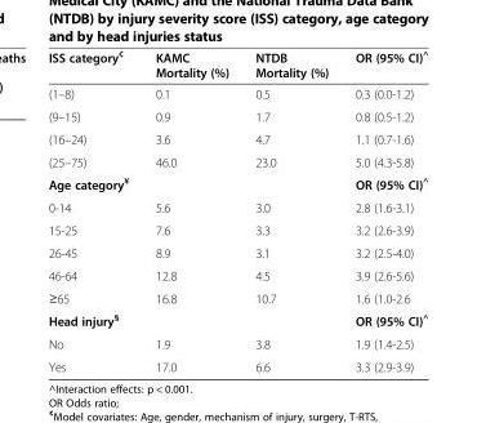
<table><thead><tr><td>ISS category<sup>¢</sup></td><td>KAMC Mortality (%)</td><td>NTDB Mortality (%)</td><td>OR (95% CI)<sup>^</sup></td></tr></thead><tbody><tr><td>(1–8)</td><td>0.1</td><td>0.5</td><td>0.3 (0.0-1.2)</td></tr><tr><td>(9–15)</td><td>0.9</td><td>1.7</td><td>0.8 (0.5-1.2)</td></tr><tr><td>(16–24)</td><td>3.6</td><td>4.7</td><td>1.1 (0.7-1.6)</td></tr><tr><td>(25–75)</td><td>46.0</td><td>23.0</td><td>5.0 (4.3-5.8)</td></tr><tr><td>Age category<sup>¥</sup></td><td></td><td></td><td>OR (95% CI)<sup>^</sup></td></tr><tr><td>0-14</td><td>5.6</td><td>3.0</td><td>2.8 (1.6-3.1)</td></tr><tr><td>15-25</td><td>7.6</td><td>3.3</td><td>3.2 (2.6-3.9)</td></tr><tr><td>26-45</td><td>8.9</td><td>3.1</td><td>3.2 (2.5-4.0)</td></tr><tr><td>46-64</td><td>12.8</td><td>4.5</td><td>3.9 (2.6-5.6)</td></tr><tr><td>≥65</td><td>16.8</td><td>10.7</td><td>1.6 (1.0-2.6</td></tr><tr><td>Head injury<sup>§</sup></td><td></td><td></td><td>OR (95% CI)<sup>^</sup></td></tr><tr><td>No</td><td>1.9</td><td>3.8</td><td>1.9 (1.4-2.5)</td></tr><tr><td>Yes</td><td>17.0</td><td>6.6</td><td>3.3 (2.9-3.9)</td></tr></tbody></table>